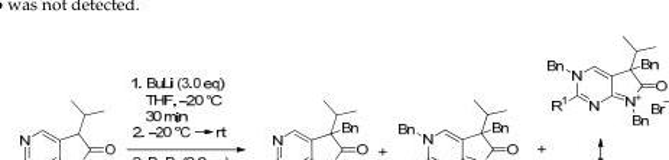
<table><thead><tr><td>Entry</td><td>24</td><td>R1</td><td>26</td><td>Yield of 26 (%)</td><td>30</td><td>Yield of 30 (%)</td><td>31</td><td>Yield of 31 (%)</td></tr></thead><tbody><tr><td>1</td><td>a</td><td>H</td><td>d</td><td>36</td><td>a</td><td>16</td><td>a</td><td>12</td></tr><tr><td>2</td><td>b</td><td>Me</td><td>e</td><td>5</td><td>b</td><td>56</td><td>b</td><td>19</td></tr></tbody></table>